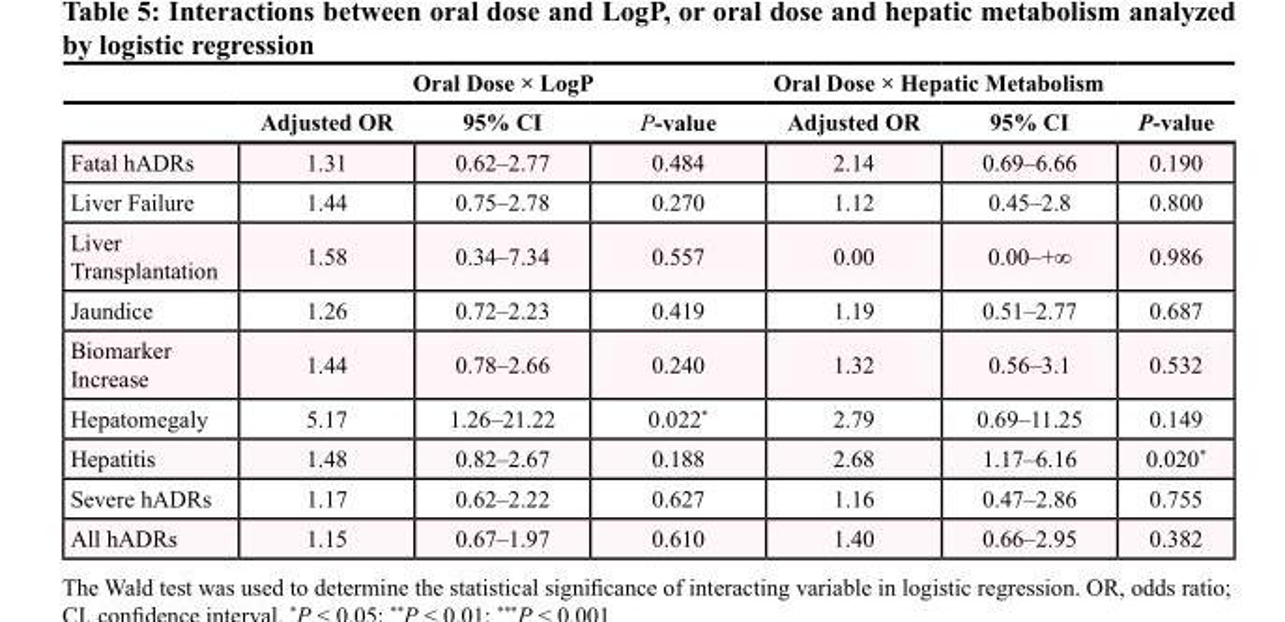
<table><thead><tr><td rowspan="2"></td><td colspan="3">Oral Dose × LogP</td><td colspan="3">Oral Dose × Hepatic Metabolism</td></tr><tr><td>Adjusted OR</td><td>95% CI</td><td>P-value</td><td>Adjusted OR</td><td>95% CI</td><td>P-value</td></tr></thead><tbody><tr><td>Fatal hADRs</td><td>1.31</td><td>0.62–2.77</td><td>0.484</td><td>2.14</td><td>0.69–6.66</td><td>0.190</td></tr><tr><td>Liver Failure</td><td>1.44</td><td>0.75–2.78</td><td>0.270</td><td>1.12</td><td>0.45–2.8</td><td>0.800</td></tr><tr><td>Liver Transplantation</td><td>1.58</td><td>0.34–7.34</td><td>0.557</td><td>0.00</td><td>0.00–+∞</td><td>0.986</td></tr><tr><td>Jaundice</td><td>1.26</td><td>0.72–2.23</td><td>0.419</td><td>1.19</td><td>0.51–2.77</td><td>0.687</td></tr><tr><td>Biomarker Increase</td><td>1.44</td><td>0.78–2.66</td><td>0.240</td><td>1.32</td><td>0.56–3.1</td><td>0.532</td></tr><tr><td>Hepatomegaly</td><td>5.17</td><td>1.26–21.22</td><td>0.022*</td><td>2.79</td><td>0.69–11.25</td><td>0.149</td></tr><tr><td>Hepatitis</td><td>1.48</td><td>0.82–2.67</td><td>0.188</td><td>2.68</td><td>1.17–6.16</td><td>0.020*</td></tr><tr><td>Severe hADRs</td><td>1.17</td><td>0.62–2.22</td><td>0.627</td><td>1.16</td><td>0.47–2.86</td><td>0.755</td></tr><tr><td>All hADRs</td><td>1.15</td><td>0.67–1.97</td><td>0.610</td><td>1.40</td><td>0.66–2.95</td><td>0.382</td></tr></tbody></table>